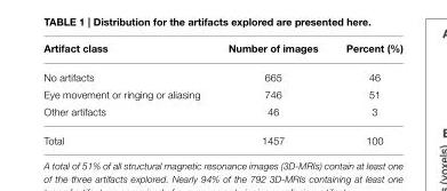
<table><thead><tr><td>Artifact class</td><td>Number of images</td><td>Percent (%)</td></tr></thead><tbody><tr><td>No artifacts</td><td>665</td><td>46</td></tr><tr><td>Eye movement or ringing or aliasing</td><td>746</td><td>51</td></tr><tr><td>Other artifacts</td><td>46</td><td>3</td></tr><tr><td>Total</td><td>1457</td><td>100</td></tr></tbody></table>